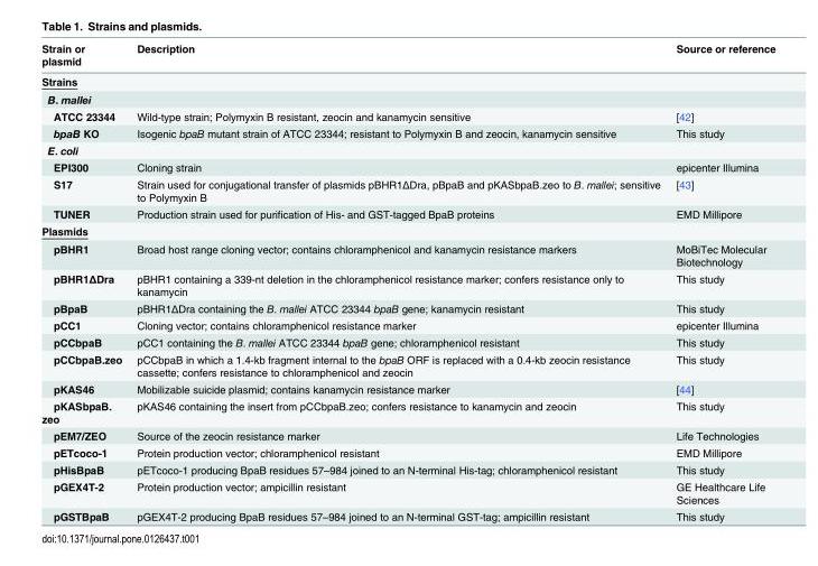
<table><thead><tr><td>Strain or plasmid</td><td>Description</td><td>Source or reference</td></tr></thead><tbody><tr><td colspan="3">Strains</td></tr><tr><td colspan="3">B. mallei</td></tr><tr><td>ATCC 23344</td><td>Wild-type strain; Polymyxin B resistant, zeocin and kanamycin sensitive</td><td>[42]</td></tr><tr><td>bpaB KO</td><td>Isogenic bpaB mutant strain of ATCC 23344; resistant to Polymyxin B and zeocin, kanamycin sensitive</td><td>This study</td></tr><tr><td colspan="3">E. coli</td></tr><tr><td>EPI300</td><td>Cloning strain</td><td>epicenter Illumina</td></tr><tr><td>S17</td><td>Strain used for conjugational transfer of plasmids pBHR1ΔDra, pBpaB and pKASbpaB.zeo to B. mallei; sensitive to Polymyxin B</td><td>[43]</td></tr><tr><td>TUNER</td><td>Production strain used for purification of His- and GST-tagged BpaB proteins</td><td>EMD Millipore</td></tr><tr><td colspan="3">Plasmids</td></tr><tr><td>pBHR1</td><td>Broad host range cloning vector; contains chloramphenicol and kanamycin resistance markers</td><td>MoBiTec Molecular Biotechnology</td></tr><tr><td>pBHR1ΔDra</td><td>pBHR1 containing a 339-nt deletion in the chloramphenicol resistance marker; confers resistance only to kanamycin</td><td>This study</td></tr><tr><td>pBpaB</td><td>pBHR1ΔDra containing the B. mallei ATCC 23344 bpaB gene; kanamycin resistant</td><td>This study</td></tr><tr><td>pCC1</td><td>Cloning vector; contains chloramphenicol resistance marker</td><td>epicenter Illumina</td></tr><tr><td>pCCbpaB</td><td>pCC1 containing the B. mallei ATCC 23344 bpaB gene; chloramphenicol resistant</td><td>This study</td></tr><tr><td>pCCbpaB.zeo</td><td>pCCbpaB in which a 1.4-kb fragment internal to the bpaB ORF is replaced with a 0.4-kb zeocin resistance cassette; confers resistance to chloramphenicol and zeocin</td><td>This study</td></tr><tr><td>pKAS46</td><td>Mobilizable suicide plasmid; contains kanamycin resistance marker</td><td>[44]</td></tr><tr><td>pKASbpaB. zeo</td><td>pKAS46 containing the insert from pCCbpaB.zeo; confers resistance to kanamycin and zeocin</td><td>This study</td></tr><tr><td>pEM7/ZEO</td><td>Source of the zeocin resistance marker</td><td>Life Technologies</td></tr><tr><td>pETcoco-1</td><td>Protein production vector; chloramphenicol resistant</td><td>EMD Millipore</td></tr><tr><td>pHisBpaB</td><td>pETcoco-1 producing BpaB residues 57–984 joined to an N-terminal His-tag; chloramphenicol resistant</td><td>This study</td></tr><tr><td>pGEX4T-2</td><td>Protein production vector; ampicillin resistant</td><td>GE Healthcare Life Sciences</td></tr><tr><td>pGSTBpaB</td><td>pGEX4T-2 producing BpaB residues 57–984 joined to an N-terminal GST-tag; ampicillin resistant</td><td>This study</td></tr></tbody></table>